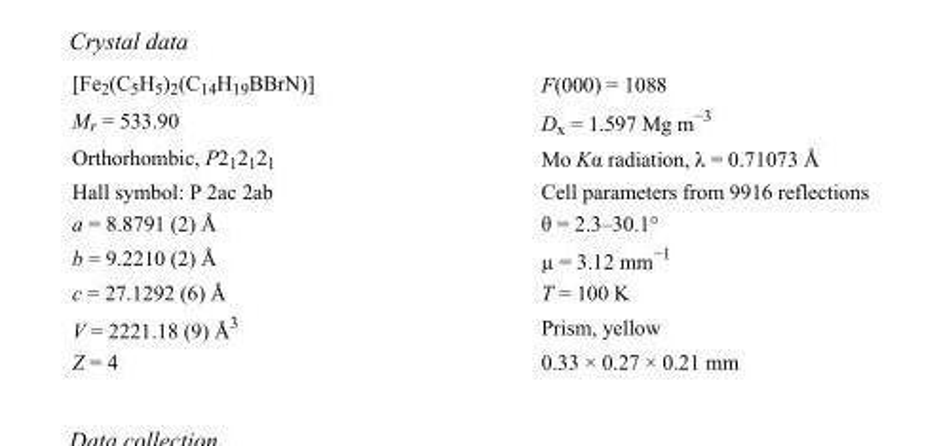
<table><tbody><tr><td>[Fe<sub>2</sub>(C<sub>5</sub>H<sub>5</sub>)<sub>2</sub>(C<sub>14</sub>H<sub>19</sub>BBrN)]</td><td>F(000) = 1088</td></tr><tr><td>M<sub>r</sub> = 533.90</td><td>D<sub>x</sub> = 1.597 Mg m<sup>−3</sup></td></tr><tr><td>Orthorhombic, P2<sub>1</sub>2<sub>1</sub>2<sub>1</sub></td><td>Mo Kα radiation, λ = 0.71073 Å</td></tr><tr><td>Hall symbol: P 2ac 2ab</td><td>Cell parameters from 9916 reflections</td></tr><tr><td>a = 8.8791 (2) Å</td><td>θ = 2.3–30.1°</td></tr><tr><td>b = 9.2210 (2) Å</td><td>µ = 3.12 mm<sup>−1</sup></td></tr><tr><td>c = 27.1292 (6) Å</td><td>T = 100 K</td></tr><tr><td>V = 2221.18 (9) Å<sup>3</sup></td><td>Prism, yellow</td></tr><tr><td>Z = 4</td><td>0.33 × 0.27 × 0.21 mm</td></tr></tbody></table>